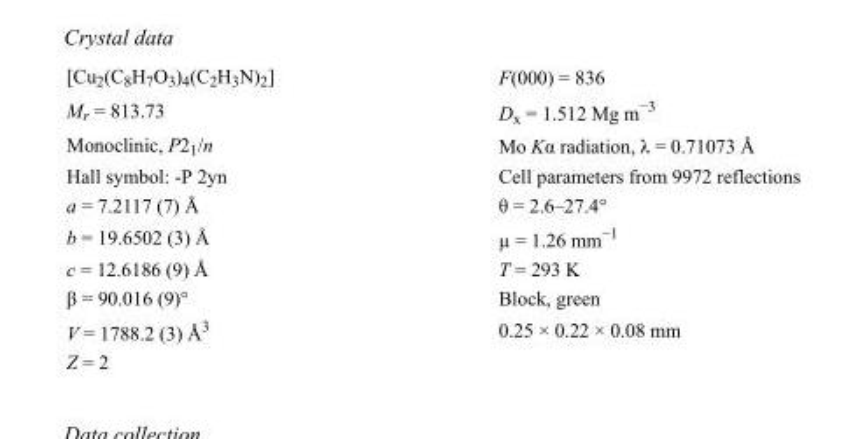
<table><tbody><tr><td>[Cu<sub>2</sub>(C<sub>8</sub>H<sub>7</sub>O<sub>3</sub>)<sub>4</sub>(C<sub>2</sub>H<sub>3</sub>N)<sub>2</sub>]</td><td>F(000) = 836</td></tr><tr><td>M<sub>r</sub> = 813.73</td><td>D<sub>x</sub> = 1.512 Mg m<sup>−3</sup></td></tr><tr><td>Monoclinic, P2<sub>1</sub>/n</td><td>Mo Kα radiation, λ = 0.71073 Å</td></tr><tr><td>Hall symbol: -P 2yn</td><td>Cell parameters from 9972 reflections</td></tr><tr><td>a = 7.2117 (7) Å</td><td>θ = 2.6–27.4°</td></tr><tr><td>b = 19.6502 (3) Å</td><td>µ = 1.26 mm<sup>−1</sup></td></tr><tr><td>c = 12.6186 (9) Å</td><td>T = 293 K</td></tr><tr><td>β = 90.016 (9)°</td><td>Block, green</td></tr><tr><td>V = 1788.2 (3) Å<sup>3</sup></td><td>0.25 × 0.22 × 0.08 mm</td></tr><tr><td>Z = 2</td><td></td></tr></tbody></table>